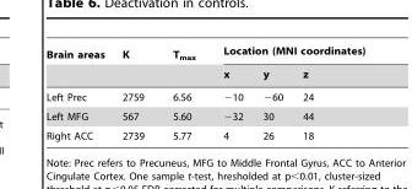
<table><thead><tr><td rowspan="2">Brain areas</td><td rowspan="2">K</td><td rowspan="2">T<sub>max</sub></td><td colspan="3">Location (MNI coordinates)</td></tr><tr><td>x</td><td>y</td><td>z</td></tr></thead><tbody><tr><td>Left Prec</td><td>2759</td><td>6.56</td><td>−10</td><td>−60</td><td>24</td></tr><tr><td>Left MFG</td><td>567</td><td>5.60</td><td>−32</td><td>30</td><td>44</td></tr><tr><td>Right ACC</td><td>2739</td><td>5.77</td><td>4</td><td>26</td><td>18</td></tr></tbody></table>